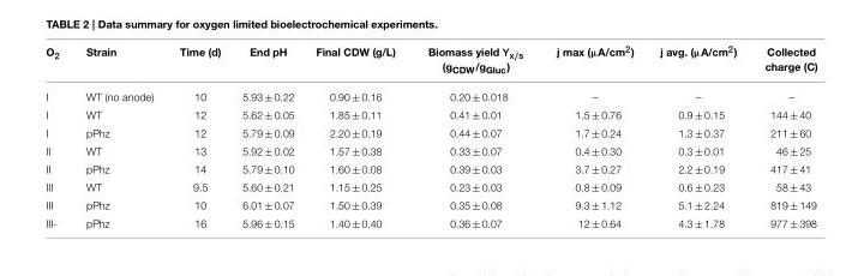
<table><thead><tr><td>O<sub>2</sub></td><td>Strain</td><td>Time (d)</td><td>End pH</td><td>Final CDW (g/L)</td><td>Biomass yield Yx/s (gCDW/gGluc)</td><td>j max (µA/cm<sup>2</sup>)</td><td>j avg. (µA/cm<sup>2</sup>)</td><td>Collected charge (C)</td></tr></thead><tbody><tr><td>I</td><td>WT (no anode)</td><td>10</td><td>5.93 ± 0.22</td><td>0.90 ± 0.16</td><td>0.20 ± 0.018</td><td>–</td><td>–</td><td>–</td></tr><tr><td>I</td><td>WT</td><td>12</td><td>5.62 ± 0.05</td><td>1.85 ± 0.11</td><td>0.41 ± 0.01</td><td>1.5 ± 0.76</td><td>0.9 ± 0.15</td><td>144 ± 40</td></tr><tr><td>I</td><td>pPhz</td><td>12</td><td>5.79 ± 0.09</td><td>2.20 ± 0.19</td><td>0.44 ± 0.07</td><td>1.7 ± 0.24</td><td>1.3 ± 0.37</td><td>211 ± 60</td></tr><tr><td>II</td><td>WT</td><td>13</td><td>5.92 ± 0.02</td><td>1.57 ± 0.38</td><td>0.33 ± 0.07</td><td>0.4 ± 0.30</td><td>0.3 ± 0.01</td><td>46 ± 25</td></tr><tr><td>II</td><td>pPhz</td><td>14</td><td>5.79 ± 0.10</td><td>1.60 ± 0.08</td><td>0.39 ± 0.03</td><td>3.7 ± 0.27</td><td>2.2 ± 0.19</td><td>417 ± 41</td></tr><tr><td>III</td><td>WT</td><td>9.5</td><td>5.60 ± 0.21</td><td>1.15 ± 0.25</td><td>0.23 ± 0.03</td><td>0.8 ± 0.09</td><td>0.6 ± 0.23</td><td>58 ± 43</td></tr><tr><td>III</td><td>pPhz</td><td>10</td><td>6.01 ± 0.07</td><td>1.50 ± 0.39</td><td>0.35 ± 0.08</td><td>9.3 ± 1.12</td><td>5.1 ± 2.24</td><td>819 ± 149</td></tr><tr><td>III-</td><td>pPhz</td><td>16</td><td>5.96 ± 0.15</td><td>1.40 ± 0.40</td><td>0.36 ± 0.07</td><td>12 ± 0.64</td><td>4.3 ± 1.78</td><td>977 ± 398</td></tr></tbody></table>